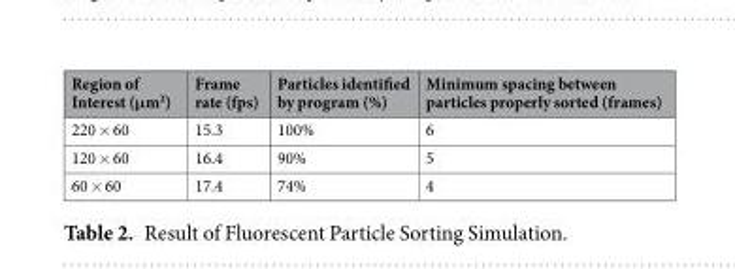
<table><thead><tr><td>Region of Interest (μm<sup>2</sup>)</td><td>Frame rate (fps)</td><td>Particles identified by program (%)</td><td>Minimum spacing between particles properly sorted (frames)</td></tr></thead><tbody><tr><td>220 × 60</td><td>15.3</td><td>100%</td><td>6</td></tr><tr><td>120 × 60</td><td>16.4</td><td>90%</td><td>5</td></tr><tr><td>60 × 60</td><td>17.4</td><td>74%</td><td>4</td></tr></tbody></table>